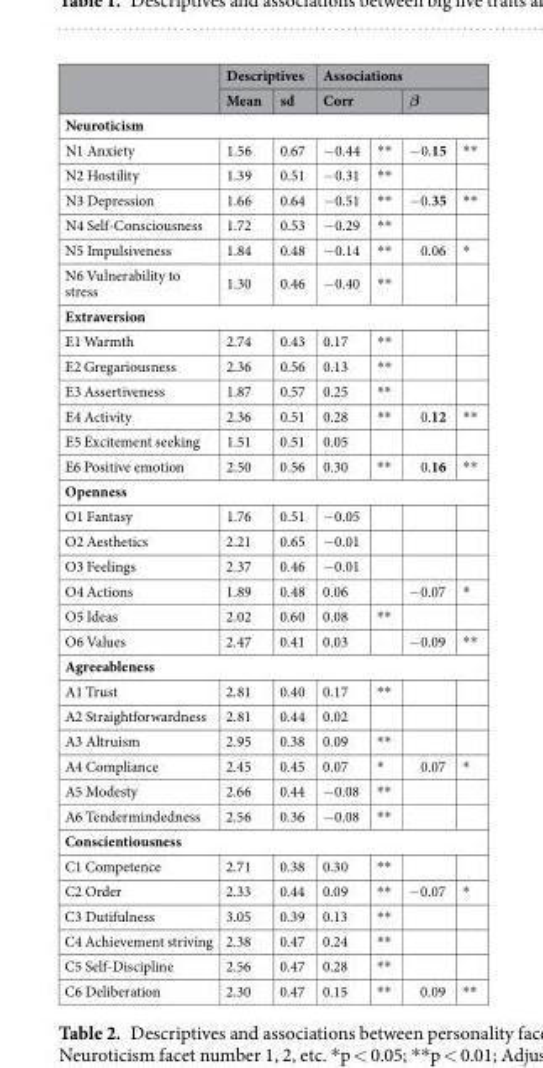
<table><thead><tr><td rowspan="2"></td><td colspan="2">Descriptives</td><td colspan="4">Associations</td></tr><tr><td>Mean</td><td>sd</td><td colspan="2">Corr</td><td colspan="2">β</td></tr><tr><td colspan="7">Neuroticism</td></tr><tr><td>N1 Anxiety</td><td>1.56</td><td>0.67</td><td>−0.44</td><td>**</td><td>−0.15</td><td>**</td></tr></thead><tbody><tr><td>N2 Hostility</td><td>1.39</td><td>0.51</td><td>−0.31</td><td>**</td><td></td><td></td></tr><tr><td>N3 Depression</td><td>1.66</td><td>0.64</td><td>−0.51</td><td>**</td><td>−0.35</td><td>**</td></tr><tr><td>N4 Self-Consciousness</td><td>1.72</td><td>0.53</td><td>−0.29</td><td>**</td><td></td><td></td></tr><tr><td>N5 Impulsiveness</td><td>1.84</td><td>0.48</td><td>−0.14</td><td>**</td><td>0.06</td><td>*</td></tr><tr><td>N6 Vulnerability to stress</td><td>1.30</td><td>0.46</td><td>−0.40</td><td>**</td><td></td><td></td></tr><tr><td colspan="7">Extraversion</td></tr><tr><td>E1 Warmth</td><td>2.74</td><td>0.43</td><td>0.17</td><td>**</td><td></td><td></td></tr><tr><td>E2 Gregariousness</td><td>2.36</td><td>0.56</td><td>0.13</td><td>**</td><td></td><td></td></tr><tr><td>E3 Assertiveness</td><td>1.87</td><td>0.57</td><td>0.25</td><td>**</td><td></td><td></td></tr><tr><td>E4 Activity</td><td>2.36</td><td>0.51</td><td>0.28</td><td>**</td><td>0.12</td><td>**</td></tr><tr><td>E5 Excitement seeking</td><td>1.51</td><td>0.51</td><td>0.05</td><td></td><td></td><td></td></tr><tr><td>E6 Positive emotion</td><td>2.50</td><td>0.56</td><td>0.30</td><td>**</td><td>0.16</td><td>**</td></tr><tr><td colspan="7">Openness</td></tr><tr><td>O1 Fantasy</td><td>1.76</td><td>0.51</td><td>−0.05</td><td></td><td></td><td></td></tr><tr><td>O2 Aesthetics</td><td>2.21</td><td>0.65</td><td>−0.01</td><td></td><td></td><td></td></tr><tr><td>O3 Feelings</td><td>2.37</td><td>0.46</td><td>−0.01</td><td></td><td></td><td></td></tr><tr><td>O4 Actions</td><td>1.89</td><td>0.48</td><td>0.06</td><td></td><td>−0.07</td><td>*</td></tr><tr><td>O5 Ideas</td><td>2.02</td><td>0.60</td><td>0.08</td><td>**</td><td></td><td></td></tr><tr><td>O6 Values</td><td>2.47</td><td>0.41</td><td>0.03</td><td></td><td>−0.09</td><td>**</td></tr><tr><td colspan="7">Agreeableness</td></tr><tr><td>A1 Trust</td><td>2.81</td><td>0.40</td><td>0.17</td><td>**</td><td></td><td></td></tr><tr><td>A2 Straightforwardness</td><td>2.81</td><td>0.44</td><td>0.02</td><td></td><td></td><td></td></tr><tr><td>A3 Altruism</td><td>2.95</td><td>0.38</td><td>0.09</td><td>**</td><td></td><td></td></tr><tr><td>A4 Compliance</td><td>2.45</td><td>0.45</td><td>0.07</td><td>*</td><td>0.07</td><td>*</td></tr><tr><td>A5 Modesty</td><td>2.66</td><td>0.44</td><td>−0.08</td><td>**</td><td></td><td></td></tr><tr><td>A6 Tendermindedness</td><td>2.56</td><td>0.36</td><td>−0.08</td><td>**</td><td></td><td></td></tr><tr><td colspan="7">Conscientiousness</td></tr><tr><td>C1 Competence</td><td>2.71</td><td>0.38</td><td>0.30</td><td>**</td><td></td><td></td></tr><tr><td>C2 Order</td><td>2.33</td><td>0.44</td><td>0.09</td><td>**</td><td>−0.07</td><td>*</td></tr><tr><td>C3 Dutifulness</td><td>3.05</td><td>0.39</td><td>0.13</td><td>**</td><td></td><td></td></tr><tr><td>C4 Achievement striving</td><td>2.38</td><td>0.47</td><td>0.24</td><td>**</td><td></td><td></td></tr><tr><td>C5 Self-Discipline</td><td>2.56</td><td>0.47</td><td>0.28</td><td>**</td><td></td><td></td></tr><tr><td>C6 Deliberation</td><td>2.30</td><td>0.47</td><td>0.15</td><td>**</td><td>0.09</td><td>**</td></tr></tbody></table>